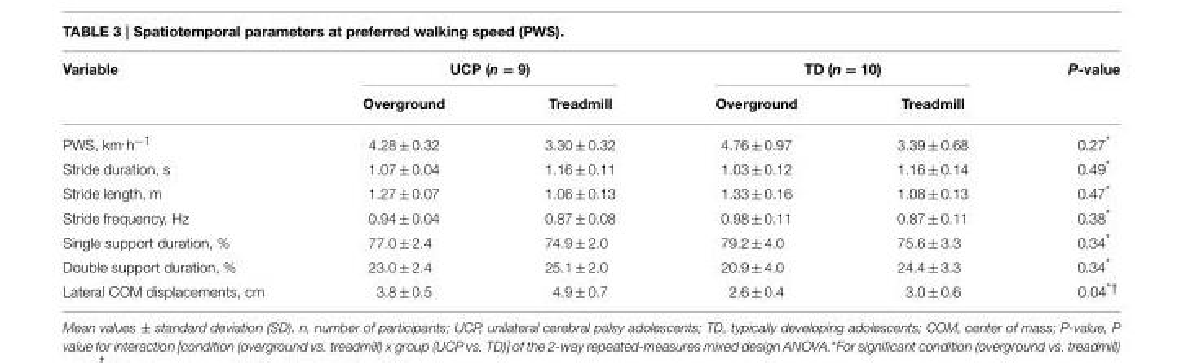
<table><thead><tr><td rowspan="2">Variable</td><td colspan="2">UCP (n = 9)</td><td colspan="2">TD (n = 10)</td><td rowspan="2">P-value</td></tr><tr><td>Overground</td><td>Treadmill</td><td>Overground</td><td>Treadmill</td></tr></thead><tbody><tr><td>PWS, km<sup>.</sup>h<sup>−1</sup></td><td>4.28 ± 0.32</td><td>3.30 ± 0.32</td><td>4.76 ± 0.97</td><td>3.39 ± 0.68</td><td>0.27*</td></tr><tr><td>Stride duration, s</td><td>1.07 ± 0.04</td><td>1.16 ± 0.11</td><td>1.03 ± 0.12</td><td>1.16 ± 0.14</td><td>0.49*</td></tr><tr><td>Stride length, m</td><td>1.27 ± 0.07</td><td>1.06 ± 0.13</td><td>1.33 ± 0.16</td><td>1.08 ± 0.13</td><td>0.47*</td></tr><tr><td>Stride frequency, Hz</td><td>0.94 ± 0.04</td><td>0.87 ± 0.08</td><td>0.98 ± 0.11</td><td>0.87 ± 0.11</td><td>0.38*</td></tr><tr><td>Single support duration, %</td><td>77.0 ± 2.4</td><td>74.9 ± 2.0</td><td>79.2 ± 4.0</td><td>75.6 ± 3.3</td><td>0.34*</td></tr><tr><td>Double support duration, %</td><td>23.0 ± 2.4</td><td>25.1 ± 2.0</td><td>20.9 ± 4.0</td><td>24.4 ± 3.3</td><td>0.34*</td></tr><tr><td>Lateral COM displacements, cm</td><td>3.8 ± 0.5</td><td>4.9 ± 0.7</td><td>2.6 ± 0.4</td><td>3.0 ± 0.6</td><td>0.04<sup>*†</sup></td></tr></tbody></table>